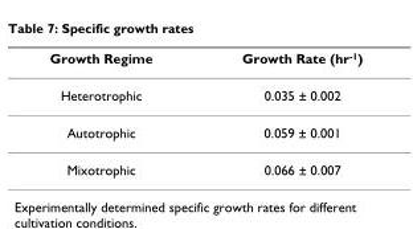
<table><thead><tr><td>Growth Regime</td><td>Growth Rate (hr<sup>-1</sup>)</td></tr></thead><tbody><tr><td>Heterotrophic</td><td>0.035 ± 0.002</td></tr><tr><td>Autotrophic</td><td>0.059 ± 0.001</td></tr><tr><td>Mixotrophic</td><td>0.066 ± 0.007</td></tr></tbody></table>